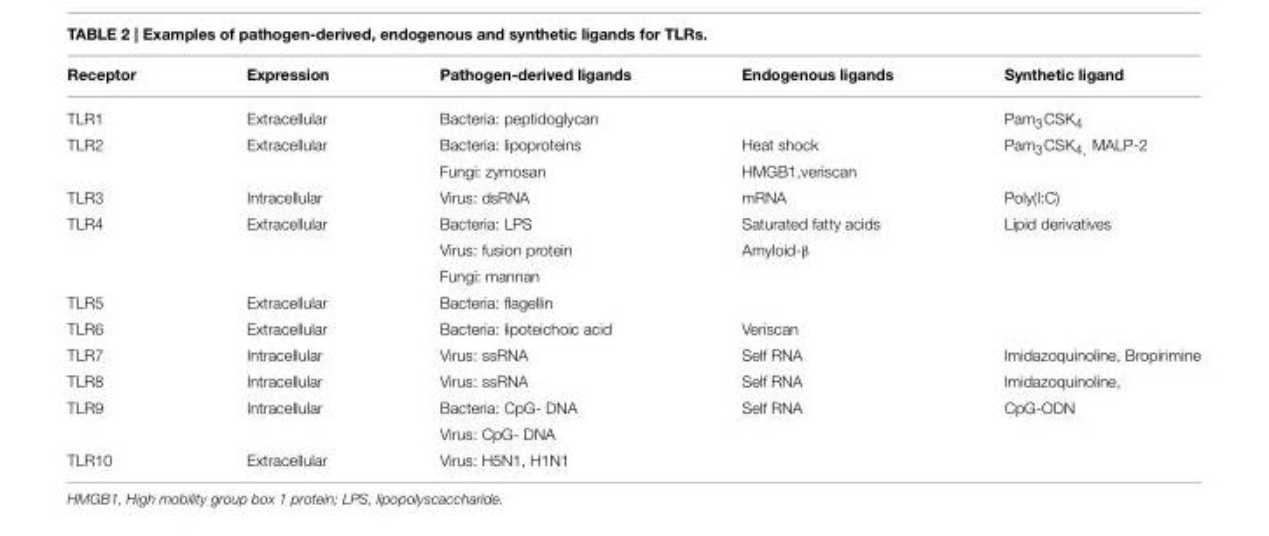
<table><thead><tr><td>Receptor</td><td>Expression</td><td>Pathogen-derived ligands</td><td>Endogenous ligands</td><td>Synthetic ligand</td></tr></thead><tbody><tr><td>TLR1</td><td>Extracellular</td><td>Bacteria: peptidoglycan</td><td></td><td>Pam<sub>3</sub>CSK<sub>4</sub></td></tr><tr><td rowspan="2">TLR2</td><td>Extracellular</td><td>Bacteria: lipoproteins</td><td>Heat shock</td><td>Pam<sub>3</sub>CSK<sub>4,</sub> MALP-2</td></tr><tr><td></td><td>Fungi: zymosan</td><td>HMGB1,veriscan</td><td></td></tr><tr><td>TLR3</td><td>Intracellular</td><td>Virus: dsRNA</td><td>mRNA</td><td>Poly(I:C)</td></tr><tr><td rowspan="3">TLR4</td><td>Extracellular</td><td>Bacteria: LPS</td><td>Saturated fatty acids</td><td>Lipid derivatives</td></tr><tr><td></td><td>Virus: fusion protein</td><td>Amyloid-β</td><td></td></tr><tr><td></td><td>Fungi: mannan</td><td></td><td></td></tr><tr><td>TLR5</td><td>Extracellular</td><td>Bacteria: flagellin</td><td></td><td></td></tr><tr><td>TLR6</td><td>Extracellular</td><td>Bacteria: lipoteichoic acid</td><td>Veriscan</td><td></td></tr><tr><td>TLR7</td><td>Intracellular</td><td>Virus: ssRNA</td><td>Self RNA</td><td>Imidazoquinoline, Bropirimine</td></tr><tr><td>TLR8</td><td>Intracellular</td><td>Virus: ssRNA</td><td>Self RNA</td><td>Imidazoquinoline,</td></tr><tr><td rowspan="2">TLR9</td><td>Intracellular</td><td>Bacteria: CpG- DNA</td><td>Self RNA</td><td>CpG-ODN</td></tr><tr><td></td><td>Virus: CpG- DNA</td><td></td><td></td></tr><tr><td>TLR10</td><td>Extracellular</td><td>Virus: H5N1, H1N1</td><td></td><td></td></tr></tbody></table>